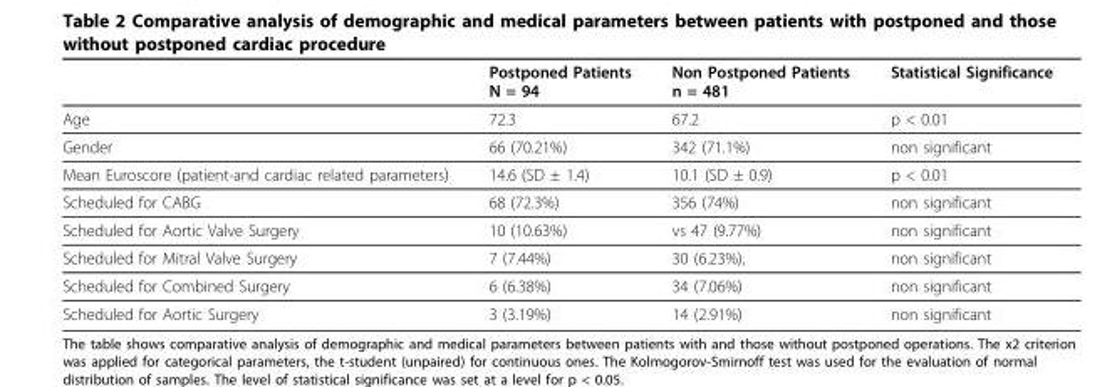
<table><thead><tr><td></td><td>Postponed Patients N = 94</td><td>Non Postponed Patients n = 481</td><td>Statistical Significance</td></tr></thead><tbody><tr><td>Age</td><td>72.3</td><td>67.2</td><td>p &lt; 0.01</td></tr><tr><td>Gender</td><td>66 (70.21%)</td><td>342 (71.1%)</td><td>non significant</td></tr><tr><td>Mean Euroscore (patient-and cardiac related parameters)</td><td>14.6 (SD ± 1.4)</td><td>10.1 (SD ± 0.9)</td><td>p &lt; 0.01</td></tr><tr><td>Scheduled for CABG</td><td>68 (72.3%)</td><td>356 (74%)</td><td>non significant</td></tr><tr><td>Scheduled for Aortic Valve Surgery</td><td>10 (10.63%)</td><td>vs 47 (9.77%)</td><td>non significant</td></tr><tr><td>Scheduled for Mitral Valve Surgery</td><td>7 (7.44%)</td><td>30 (6.23%),</td><td>non significant</td></tr><tr><td>Scheduled for Combined Surgery</td><td>6 (6.38%)</td><td>34 (7.06%)</td><td>non significant</td></tr><tr><td>Scheduled for Aortic Surgery</td><td>3 (3.19%)</td><td>14 (2.91%)</td><td>non significant</td></tr></tbody></table>